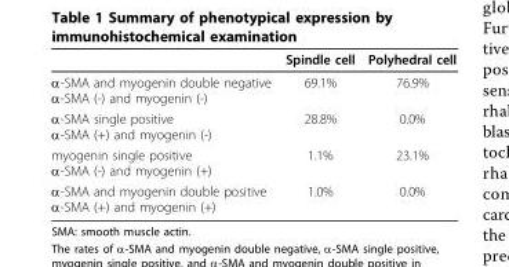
<table><thead><tr><td></td><td>Spindle cell</td><td>Polyhedral cell</td></tr></thead><tbody><tr><td>α-SMA and myogenin double negative α-SMA (-) and myogenin (-)</td><td>69.1%</td><td>76.9%</td></tr><tr><td>α-SMA single positive α-SMA (+) and myogenin (-)</td><td>28.8%</td><td>0.0%</td></tr><tr><td>myogenin single positive α-SMA (-) and myogenin (+)</td><td>1.1%</td><td>23.1%</td></tr><tr><td>α-SMA and myogenin double positive α-SMA (+) and myogenin (+)</td><td>1.0%</td><td>0.0%</td></tr></tbody></table>